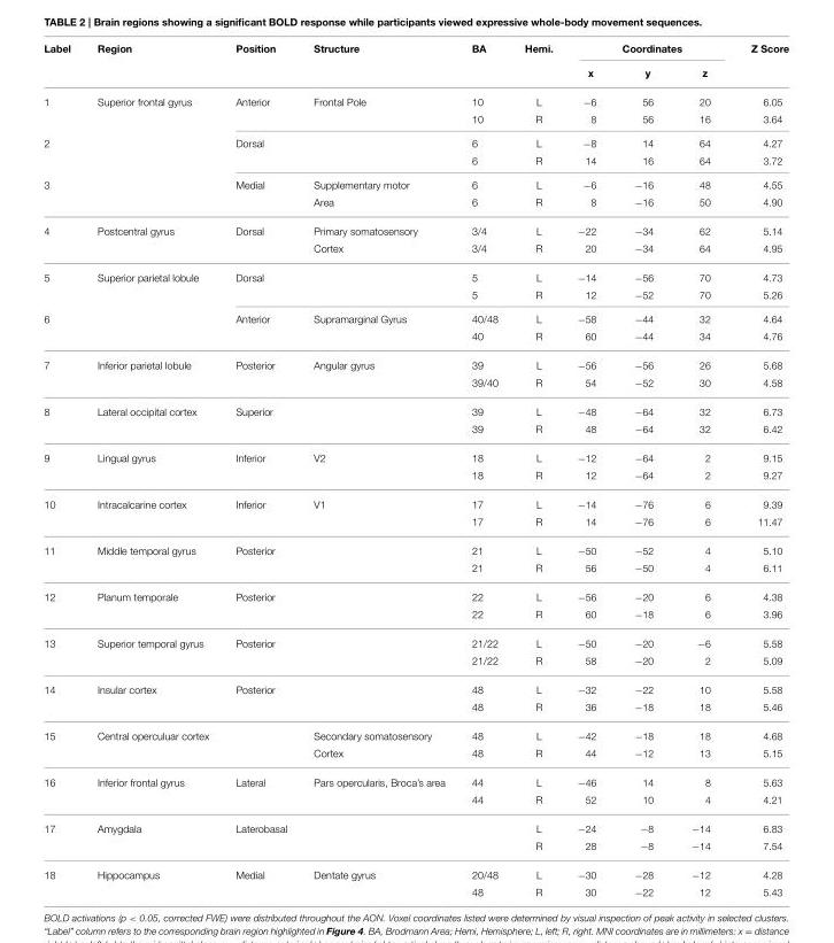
<table><thead><tr><td rowspan="2">Label</td><td rowspan="2">Region</td><td rowspan="2">Position</td><td rowspan="2">Structure</td><td rowspan="2">BA</td><td rowspan="2">Hemi.</td><td colspan="3">Coordinates</td><td rowspan="2">Z Score</td></tr><tr><td>x</td><td>y</td><td>z</td></tr></thead><tbody><tr><td rowspan="2">1</td><td>Superior frontal gyrus</td><td>Anterior</td><td>Frontal Pole</td><td>10</td><td>L</td><td>−6</td><td>56</td><td>20</td><td>6.05</td></tr><tr><td></td><td></td><td></td><td>10</td><td>R</td><td>8</td><td>56</td><td>16</td><td>3.64</td></tr><tr><td rowspan="2">2</td><td></td><td>Dorsal</td><td></td><td>6</td><td>L</td><td>−8</td><td>14</td><td>64</td><td>4.27</td></tr><tr><td></td><td></td><td></td><td>6</td><td>R</td><td>14</td><td>16</td><td>64</td><td>3.72</td></tr><tr><td rowspan="2">3</td><td></td><td>Medial</td><td>Supplementary motor</td><td>6</td><td>L</td><td>−6</td><td>−16</td><td>48</td><td>4.55</td></tr><tr><td></td><td></td><td>Area</td><td>6</td><td>R</td><td>8</td><td>−16</td><td>50</td><td>4.90</td></tr><tr><td rowspan="2">4</td><td>Postcentral gyrus</td><td>Dorsal</td><td>Primary somatosensory</td><td>3/4</td><td>L</td><td>−22</td><td>−34</td><td>62</td><td>5.14</td></tr><tr><td></td><td></td><td>Cortex</td><td>3/4</td><td>R</td><td>20</td><td>−34</td><td>64</td><td>4.95</td></tr><tr><td rowspan="2">5</td><td>Superior parietal lobule</td><td>Dorsal</td><td></td><td>5</td><td>L</td><td>−14</td><td>−56</td><td>70</td><td>4.73</td></tr><tr><td></td><td></td><td></td><td>5</td><td>R</td><td>12</td><td>−52</td><td>70</td><td>5.26</td></tr><tr><td rowspan="2">6</td><td></td><td>Anterior</td><td>Supramarginal Gyrus</td><td>40/48</td><td>L</td><td>−58</td><td>−44</td><td>32</td><td>4.64</td></tr><tr><td></td><td></td><td></td><td>40</td><td>R</td><td>60</td><td>−44</td><td>34</td><td>4.76</td></tr><tr><td rowspan="2">7</td><td>Inferior parietal lobule</td><td>Posterior</td><td>Angular gyrus</td><td>39</td><td>L</td><td>−56</td><td>−56</td><td>26</td><td>5.68</td></tr><tr><td></td><td></td><td></td><td>39/40</td><td>R</td><td>54</td><td>−52</td><td>30</td><td>4.58</td></tr><tr><td rowspan="2">8</td><td>Lateral occipital cortex</td><td>Superior</td><td></td><td>39</td><td>L</td><td>−48</td><td>−64</td><td>32</td><td>6.73</td></tr><tr><td></td><td></td><td></td><td>39</td><td>R</td><td>48</td><td>−64</td><td>32</td><td>6.42</td></tr><tr><td rowspan="2">9</td><td>Lingual gyrus</td><td>Inferior</td><td>V2</td><td>18</td><td>L</td><td>−12</td><td>−64</td><td>2</td><td>9.15</td></tr><tr><td></td><td></td><td></td><td>18</td><td>R</td><td>12</td><td>−64</td><td>2</td><td>9.27</td></tr><tr><td rowspan="2">10</td><td>Intracalcarine cortex</td><td>Inferior</td><td>V1</td><td>17</td><td>L</td><td>−14</td><td>−76</td><td>6</td><td>9.39</td></tr><tr><td></td><td></td><td></td><td>17</td><td>R</td><td>14</td><td>−76</td><td>6</td><td>11.47</td></tr><tr><td rowspan="2">11</td><td>Middle temporal gyrus</td><td>Posterior</td><td></td><td>21</td><td>L</td><td>−50</td><td>−52</td><td>4</td><td>5.10</td></tr><tr><td></td><td></td><td></td><td>21</td><td>R</td><td>56</td><td>−50</td><td>4</td><td>6.11</td></tr><tr><td rowspan="2">12</td><td>Planum temporale</td><td>Posterior</td><td></td><td>22</td><td>L</td><td>−56</td><td>−20</td><td>6</td><td>4.38</td></tr><tr><td></td><td></td><td></td><td>22</td><td>R</td><td>60</td><td>−18</td><td>6</td><td>3.96</td></tr><tr><td rowspan="2">13</td><td>Superior temporal gyrus</td><td>Posterior</td><td></td><td>21/22</td><td>L</td><td>−50</td><td>−20</td><td>−6</td><td>5.58</td></tr><tr><td></td><td></td><td></td><td>21/22</td><td>R</td><td>58</td><td>−20</td><td>2</td><td>5.09</td></tr><tr><td rowspan="2">14</td><td>Insular cortex</td><td>Posterior</td><td></td><td>48</td><td>L</td><td>−32</td><td>−22</td><td>10</td><td>5.58</td></tr><tr><td></td><td></td><td></td><td>48</td><td>R</td><td>36</td><td>−18</td><td>18</td><td>5.46</td></tr><tr><td rowspan="2">15</td><td>Central operculuar cortex</td><td></td><td>Secondary somatosensory</td><td>48</td><td>L</td><td>−42</td><td>−18</td><td>18</td><td>4.68</td></tr><tr><td></td><td></td><td>Cortex</td><td>48</td><td>R</td><td>44</td><td>−12</td><td>13</td><td>5.15</td></tr><tr><td rowspan="2">16</td><td>Inferior frontal gyrus</td><td>Lateral</td><td>Pars opercularis, Broca’s area</td><td>44</td><td>L</td><td>−46</td><td>14</td><td>8</td><td>5.63</td></tr><tr><td></td><td></td><td></td><td>44</td><td>R</td><td>52</td><td>10</td><td>4</td><td>4.21</td></tr><tr><td rowspan="2">17</td><td>Amygdala</td><td>Laterobasal</td><td></td><td></td><td>L</td><td>−24</td><td>−8</td><td>−14</td><td>6.83</td></tr><tr><td></td><td></td><td></td><td></td><td>R</td><td>28</td><td>−8</td><td>−14</td><td>7.54</td></tr><tr><td rowspan="2">18</td><td>Hippocampus</td><td>Medial</td><td>Dentate gyrus</td><td>20/48</td><td>L</td><td>−30</td><td>−28</td><td>−12</td><td>4.28</td></tr><tr><td></td><td></td><td></td><td>48</td><td>R</td><td>30</td><td>−22</td><td>12</td><td>5.43</td></tr></tbody></table>